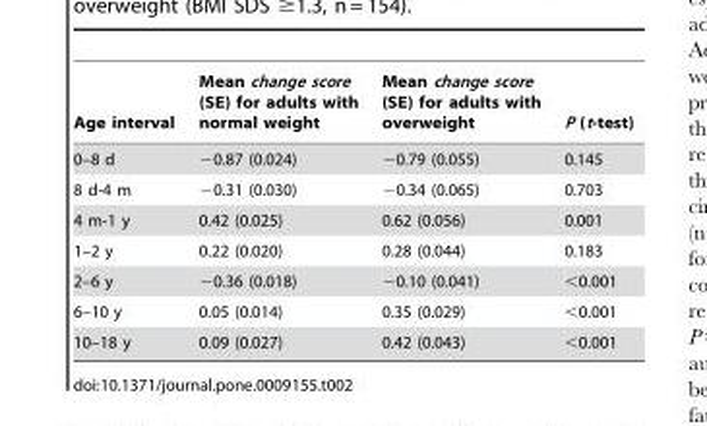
<table><thead><tr><td>Age interval</td><td>Mean change score (SE) for adults with normal weight</td><td>Mean change score (SE) for adults with overweight</td><td>P (t-test)</td></tr></thead><tbody><tr><td>0–8 d</td><td>−0.87 (0.024)</td><td>−0.79 (0.055)</td><td>0.145</td></tr><tr><td>8 d-4 m</td><td>−0.31 (0.030)</td><td>−0.34 (0.065)</td><td>0.703</td></tr><tr><td>4 m-1 y</td><td>0.42 (0.025)</td><td>0.62 (0.056)</td><td>0.001</td></tr><tr><td>1–2 y</td><td>0.22 (0.020)</td><td>0.28 (0.044)</td><td>0.183</td></tr><tr><td>2–6 y</td><td>−0.36 (0.018)</td><td>−0.10 (0.041)</td><td>&lt;0.001</td></tr><tr><td>6–10 y</td><td>0.05 (0.014)</td><td>0.35 (0.029)</td><td>&lt;0.001</td></tr><tr><td>10–18 y</td><td>0.09 (0.027)</td><td>0.42 (0.043)</td><td>&lt;0.001</td></tr></tbody></table>